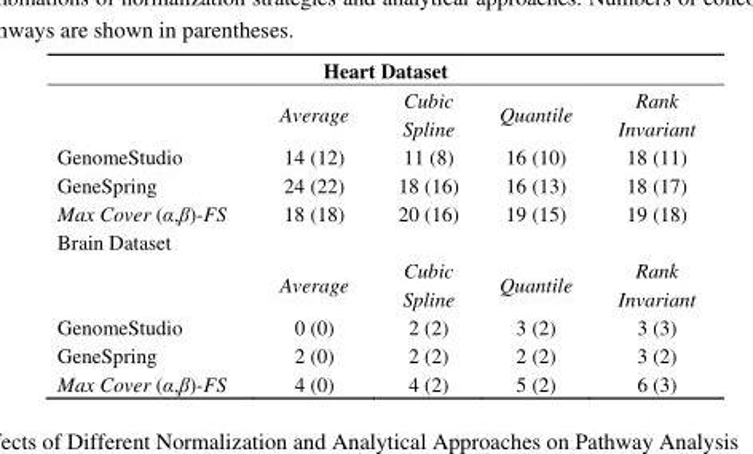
<table><thead><tr><td colspan="5">Heart Dataset</td></tr><tr><td></td><td>Average</td><td>Cubic Spline</td><td>Quantile</td><td>Rank Invariant</td></tr></thead><tbody><tr><td>GenomeStudio</td><td>14 (12)</td><td>11 (8)</td><td>16 (10)</td><td>18 (11)</td></tr><tr><td>GeneSpring</td><td>24 (22)</td><td>18 (16)</td><td>16 (13)</td><td>18 (17)</td></tr><tr><td>Max Cover (α,β)-FS</td><td>18 (18)</td><td>20 (16)</td><td>19 (15)</td><td>19 (18)</td></tr><tr><td colspan="5">Brain Dataset</td></tr><tr><td></td><td>Average</td><td>Cubic Spline</td><td>Quantile</td><td>Rank Invariant</td></tr><tr><td>GenomeStudio</td><td>0 (0)</td><td>2 (2)</td><td>3 (2)</td><td>3 (3)</td></tr><tr><td>GeneSpring</td><td>2 (0)</td><td>2 (2)</td><td>2 (2)</td><td>3 (2)</td></tr><tr><td>Max Cover (α,β)-FS</td><td>4 (0)</td><td>4 (2)</td><td>5 (2)</td><td>6 (3)</td></tr></tbody></table>